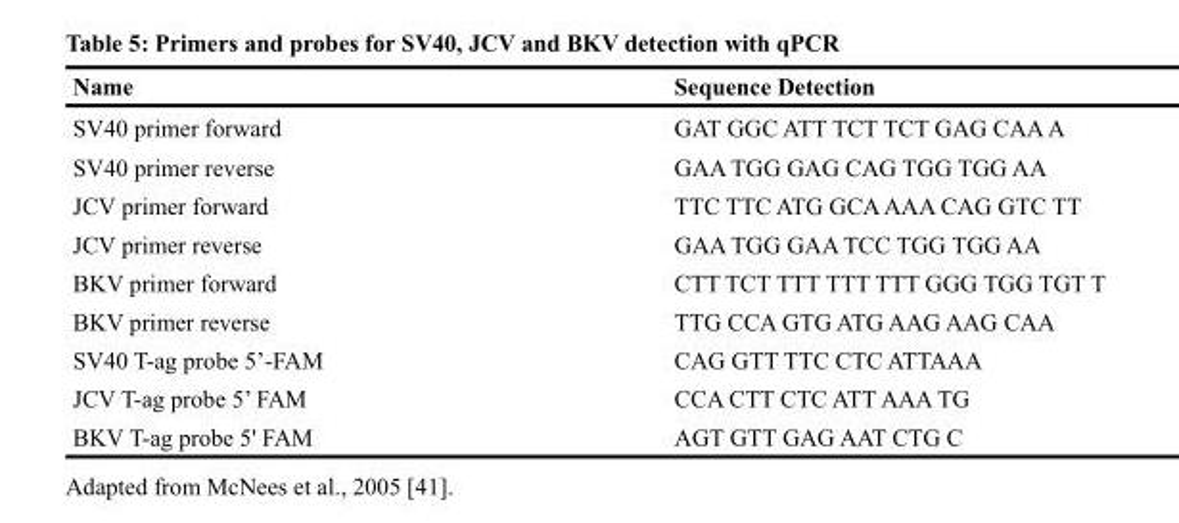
<table><thead><tr><td>Name</td><td>Sequence Detection</td></tr></thead><tbody><tr><td>SV40 primer forward</td><td>GAT GGC ATT TCT TCT GAG CAA A</td></tr><tr><td>SV40 primer reverse</td><td>GAA TGG GAG CAG TGG TGG AA</td></tr><tr><td>JCV primer forward</td><td>TTC TTC ATG GCA AAA CAG GTC TT</td></tr><tr><td>JCV primer reverse</td><td>GAA TGG GAA TCC TGG TGG AA</td></tr><tr><td>BKV primer forward</td><td>CTT TCT TTT TTT TTT GGG TGG TGT T</td></tr><tr><td>BKV primer reverse</td><td>TTG CCA GTG ATG AAG AAG CAA</td></tr><tr><td>SV40 T-ag probe 5’-FAM</td><td>CAG GTT TTC CTC ATTAAA</td></tr><tr><td>JCV T-ag probe 5’ FAM</td><td>CCA CTT CTC ATT AAA TG</td></tr><tr><td>BKV T-ag probe 5&#x27; FAM</td><td>AGT GTT GAG AAT CTG C</td></tr></tbody></table>